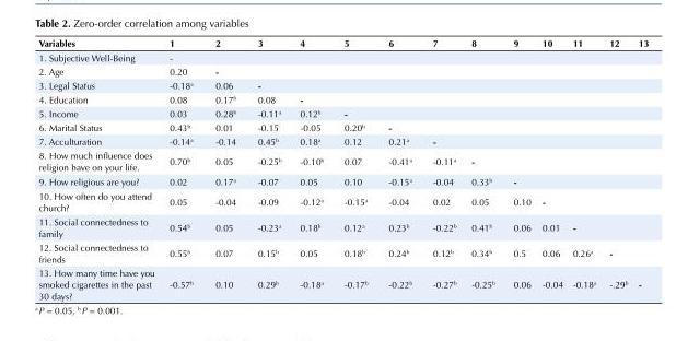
<table><tbody><tr><td>Variables</td><td>1</td><td>2</td><td>3</td><td>4</td><td>5</td><td>6</td><td>7</td><td>8</td><td>9</td><td>10</td><td>11</td><td>12</td><td>13</td></tr><tr><td>1. Subjective Well-Being</td><td>-</td><td></td><td></td><td></td><td></td><td></td><td></td><td></td><td></td><td></td><td></td><td></td><td></td></tr><tr><td>2. Age</td><td>0.20</td><td>-</td><td></td><td></td><td></td><td></td><td></td><td></td><td></td><td></td><td></td><td></td><td></td></tr><tr><td>3. Legal Status</td><td>-0.18<sup>a</sup></td><td>0.06</td><td>-</td><td></td><td></td><td></td><td></td><td></td><td></td><td></td><td></td><td></td><td></td></tr><tr><td>4. Education</td><td>0.08</td><td>0.17<sup>b</sup></td><td>0.08</td><td>-</td><td></td><td></td><td></td><td></td><td></td><td></td><td></td><td></td><td></td></tr><tr><td>5. Income</td><td>0.03</td><td>0.28<sup>b</sup></td><td>-0.11<sup>a</sup></td><td>0.12<sup>b</sup></td><td>-</td><td></td><td></td><td></td><td></td><td></td><td></td><td></td><td></td></tr><tr><td>6. Marital Status</td><td>0.43<sup>b</sup></td><td>0.01</td><td>-0.15</td><td>-0.05</td><td>0.20<sup>b</sup></td><td>-</td><td></td><td></td><td></td><td></td><td></td><td></td><td></td></tr><tr><td>7. Acculturation</td><td>-0.14<sup>a</sup></td><td>-0.14</td><td>0.45<sup>b</sup></td><td>0.18<sup>a</sup></td><td>0.12</td><td>0.21<sup>a</sup></td><td>-</td><td></td><td></td><td></td><td></td><td></td><td></td></tr><tr><td>8. How much influence does religion have on your life.</td><td>0.70<sup>b</sup></td><td>0.05</td><td>-0.25<sup>b</sup></td><td>-0.10<sup>b</sup></td><td>0.07</td><td>-0.41<sup>a</sup></td><td>-0.11<sup>a</sup></td><td>-</td><td></td><td></td><td></td><td></td><td></td></tr><tr><td>9. How religious are you?</td><td>0.02</td><td>0.17<sup>a</sup></td><td>-0.07</td><td>0.05</td><td>0.10</td><td>-0.15<sup>a</sup></td><td>-0.04</td><td>0.33<sup>b</sup></td><td>-</td><td></td><td></td><td></td><td></td></tr><tr><td>10. How often do you attend church?</td><td>0.05</td><td>-0.04</td><td>-0.09</td><td>-0.12<sup>a</sup></td><td>-0.15<sup>a</sup></td><td>-0.04</td><td>0.02</td><td>0.05</td><td>0.10</td><td>-</td><td></td><td></td><td></td></tr><tr><td>11. Social connectedness to family</td><td>0.54<sup>b</sup></td><td>0.05</td><td>-0.23<sup>a</sup></td><td>0.18<sup>b</sup></td><td>0.12<sup>a</sup></td><td>0.23<sup>b</sup></td><td>-0.22<sup>b</sup></td><td>0.41<sup>b</sup></td><td>0.06</td><td>0.01</td><td>-</td><td></td><td></td></tr><tr><td>12. Social connectedness to friends</td><td>0.55<sup>b</sup></td><td>0.07</td><td>0.15<sup>b</sup></td><td>0.05</td><td>0.18<sup>b</sup></td><td>0.24<sup>b</sup></td><td>0.12<sup>b</sup></td><td>0.34<sup>b</sup></td><td>0.5</td><td>0.06</td><td>0.26<sup>a</sup></td><td>-</td><td></td></tr><tr><td>13. How many time have you smoked cigarettes in the past 30 days?</td><td>-0.57<sup>b</sup></td><td>0.10</td><td>0.29<sup>b</sup></td><td>-0.18<sup>a</sup></td><td>-0.17<sup>b</sup></td><td>-0.22<sup>b</sup></td><td>-0.27<sup>b</sup></td><td>-0.25<sup>b</sup></td><td>0.06</td><td>-0.04</td><td>-0.18<sup>a</sup></td><td>-.29<sup>b</sup></td><td>-</td></tr></tbody></table>